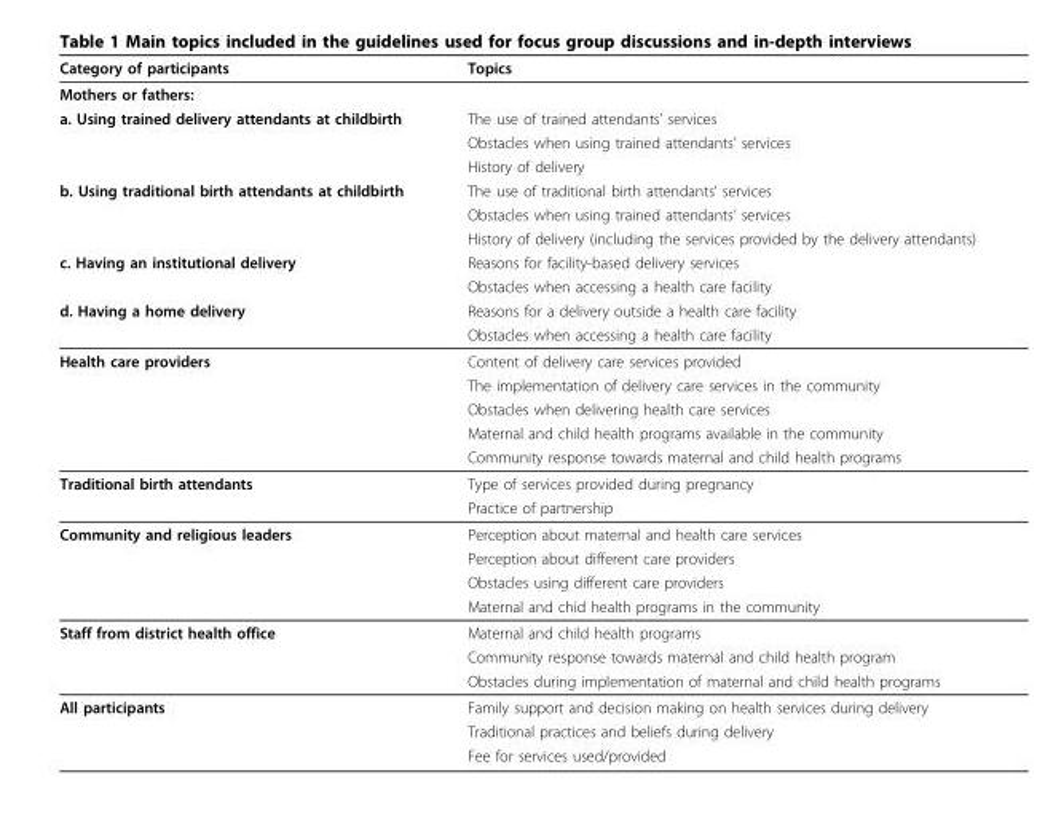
<table><thead><tr><td>Category of participants</td><td>Topics</td></tr></thead><tbody><tr><td colspan="2">Mothers or fathers:</td></tr><tr><td rowspan="3">a. Using trained delivery attendants at childbirth</td><td>The use of trained attendants’ services</td></tr><tr><td>Obstacles when using trained attendants’ services</td></tr><tr><td>History of delivery</td></tr><tr><td rowspan="3">b. Using traditional birth attendants at childbirth</td><td>The use of traditional birth attendants’ services</td></tr><tr><td>Obstacles when using trained attendants’ services</td></tr><tr><td>History of delivery (including the services provided by the delivery attendants)</td></tr><tr><td rowspan="2">c. Having an institutional delivery</td><td>Reasons for facility-based delivery services</td></tr><tr><td>Obstacles when accessing a health care facility</td></tr><tr><td rowspan="2">d. Having a home delivery</td><td>Reasons for a delivery outside a health care facility</td></tr><tr><td>Obstacles when accessing a health care facility</td></tr><tr><td rowspan="5">Health care providers</td><td>Content of delivery care services provided</td></tr><tr><td>The implementation of delivery care services in the community</td></tr><tr><td>Obstacles when delivering health care services</td></tr><tr><td>Maternal and child health programs available in the community</td></tr><tr><td>Community response towards maternal and child health programs</td></tr><tr><td rowspan="2">Traditional birth attendants</td><td>Type of services provided during pregnancy</td></tr><tr><td>Practice of partnership</td></tr><tr><td rowspan="4">Community and religious leaders</td><td>Perception about maternal and health care services</td></tr><tr><td>Perception about different care providers</td></tr><tr><td>Obstacles using different care providers</td></tr><tr><td>Maternal and chid health programs in the community</td></tr><tr><td rowspan="3">Staff from district health office</td><td>Maternal and child health programs</td></tr><tr><td>Community response towards maternal and child health program</td></tr><tr><td>Obstacles during implementation of maternal and child health programs</td></tr><tr><td rowspan="3">All participants</td><td>Family support and decision making on health services during delivery</td></tr><tr><td>Traditional practices and beliefs during delivery</td></tr><tr><td>Fee for services used/provided</td></tr></tbody></table>